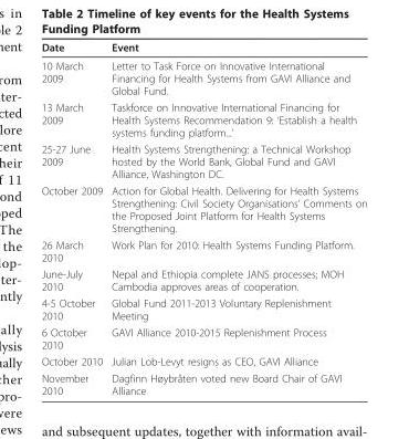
<table><thead><tr><td>Date</td><td>Event</td></tr></thead><tbody><tr><td>10 March 2009</td><td>Letter to Task Force on Innovative International Financing for Health Systems from GAVI Alliance and Global Fund.</td></tr><tr><td>13 March 2009</td><td>Taskforce on Innovative International Financing for Health Systems Recommendation 9: ‘Establish a health systems funding platform...’</td></tr><tr><td>25-27 June 2009</td><td>Health Systems Strengthening: a Technical Workshop hosted by the World Bank, Global Fund and GAVI Alliance, Washington DC.</td></tr><tr><td>October 2009</td><td>Action for Global Health. Delivering for Health Systems Strengthening: Civil Society Organisations’ Comments on the Proposed Joint Platform for Health Systems Strengthening.</td></tr><tr><td>26 March 2010</td><td>Work Plan for 2010: Health Systems Funding Platform.</td></tr><tr><td>June-July 2010</td><td>Nepal and Ethiopia complete JANS processes; MOH Cambodia approves areas of cooperation.</td></tr><tr><td>4-5 October 2010</td><td>Global Fund 2011-2013 Voluntary Replenishment Meeting</td></tr><tr><td>6 October 2010</td><td>GAVI Alliance 2010-2015 Replenishment Process</td></tr><tr><td>October 2010</td><td>Julian Lob-Levyt resigns as CEO, GAVI Alliance</td></tr><tr><td>November 2010</td><td>Dagfinn Høybråten voted new Board Chair of GAVI Alliance</td></tr></tbody></table>